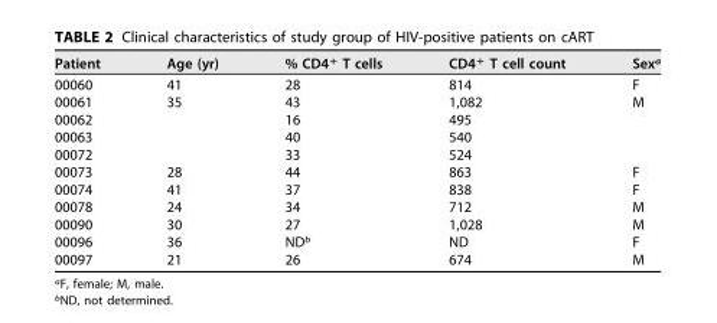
<table><thead><tr><td>Patient</td><td>Age (yr)</td><td>% CD4<sup>+</sup> T cells</td><td>CD4<sup>+</sup> T cell count</td><td>Sex<sup>a</sup></td></tr></thead><tbody><tr><td>00060</td><td>41</td><td>28</td><td>814</td><td>F</td></tr><tr><td>00061</td><td>35</td><td>43</td><td>1,082</td><td>M</td></tr><tr><td>00062</td><td></td><td>16</td><td>495</td><td></td></tr><tr><td>00063</td><td></td><td>40</td><td>540</td><td></td></tr><tr><td>00072</td><td></td><td>33</td><td>524</td><td></td></tr><tr><td>00073</td><td>28</td><td>44</td><td>863</td><td>F</td></tr><tr><td>00074</td><td>41</td><td>37</td><td>838</td><td>F</td></tr><tr><td>00078</td><td>24</td><td>34</td><td>712</td><td>M</td></tr><tr><td>00090</td><td>30</td><td>27</td><td>1,028</td><td>M</td></tr><tr><td>00096</td><td>36</td><td>ND<sup>b</sup></td><td>ND</td><td>F</td></tr><tr><td>00097</td><td>21</td><td>26</td><td>674</td><td>M</td></tr></tbody></table>